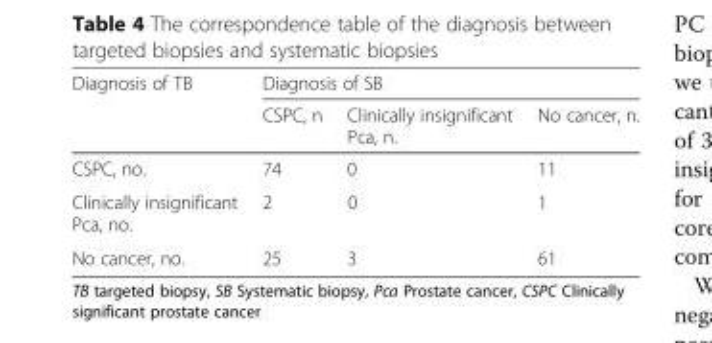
<table><thead><tr><td rowspan="2">Diagnosis of TB</td><td colspan="3">Diagnosis of SB</td></tr><tr><td>CSPC, n</td><td>Clinically insignificant Pca, n.</td><td>No cancer, n.</td></tr></thead><tbody><tr><td>CSPC, no.</td><td>74</td><td>0</td><td>11</td></tr><tr><td>Clinically insignificant Pca, no.</td><td>2</td><td>0</td><td>1</td></tr><tr><td>No cancer, no.</td><td>25</td><td>3</td><td>61</td></tr></tbody></table>